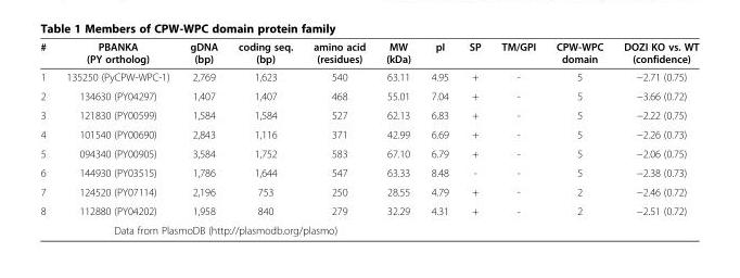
<table><thead><tr><td>#</td><td>PBANKA (PY ortholog)</td><td>gDNA (bp)</td><td>coding seq. (bp)</td><td>amino acid (residues)</td><td>MW (kDa)</td><td>pI</td><td>SP</td><td>TM/GPI</td><td>CPW-WPC domain</td><td>DOZI KO vs. WT (confidence)</td></tr></thead><tbody><tr><td>1</td><td>135250 (PyCPW-WPC-1)</td><td>2,769</td><td>1,623</td><td>540</td><td>63.11</td><td>4.95</td><td>+</td><td>-</td><td>5</td><td>−2.71 (0.75)</td></tr><tr><td>2</td><td>134630 (PY04297)</td><td>1,407</td><td>1,407</td><td>468</td><td>55.01</td><td>7.04</td><td>+</td><td>-</td><td>5</td><td>−3.66 (0.72)</td></tr><tr><td>3</td><td>121830 (PY00599)</td><td>1,584</td><td>1,584</td><td>527</td><td>62.13</td><td>6.83</td><td>+</td><td>-</td><td>5</td><td>−2.22 (0.75)</td></tr><tr><td>4</td><td>101540 (PY00690)</td><td>2,843</td><td>1,116</td><td>371</td><td>42.99</td><td>6.69</td><td>+</td><td>-</td><td>5</td><td>−2.26 (0.73)</td></tr><tr><td>5</td><td>094340 (PY00905)</td><td>3,584</td><td>1,752</td><td>583</td><td>67.10</td><td>6.79</td><td>+</td><td>-</td><td>5</td><td>−2.06 (0.75)</td></tr><tr><td>6</td><td>144930 (PY03515)</td><td>1,786</td><td>1,644</td><td>547</td><td>63.33</td><td>8.48</td><td>-</td><td>-</td><td>5</td><td>−2.38 (0.73)</td></tr><tr><td>7</td><td>124520 (PY07114)</td><td>2,196</td><td>753</td><td>250</td><td>28.55</td><td>4.79</td><td>+</td><td>-</td><td>2</td><td>−2.46 (0.72)</td></tr><tr><td>8</td><td>112880 (PY04202)</td><td>1,958</td><td>840</td><td>279</td><td>32.29</td><td>4.31</td><td>+</td><td>-</td><td>2</td><td>−2.51 (0.72)</td></tr><tr><td colspan="6">Data from PlasmoDB (http://plasmodb.org/plasmo)</td><td></td><td></td><td></td><td></td><td></td></tr></tbody></table>